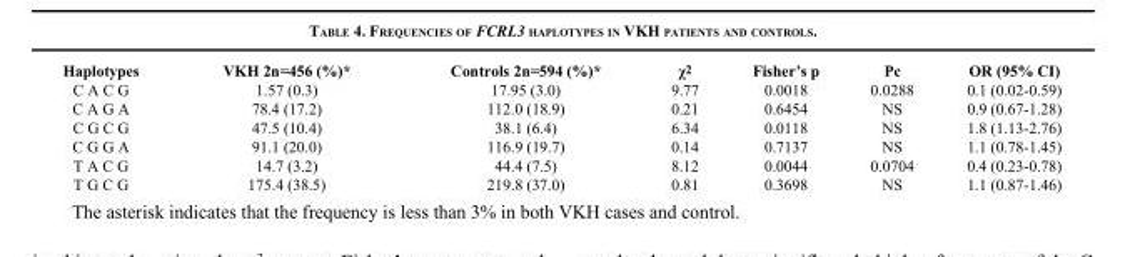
<table><thead><tr><td>Haplotypes</td><td>VKH 2n=456 (%)*</td><td>Controls 2n=594 (%)*</td><td>χ<sup>2</sup></td><td>Fisher’s p</td><td>Pc</td><td>OR (95% CI)</td></tr></thead><tbody><tr><td>C A C G</td><td>1.57 (0.3)</td><td>17.95 (3.0)</td><td>9.77</td><td>0.0018</td><td>0.0288</td><td>0.1 (0.02-0.59)</td></tr><tr><td>C A G A</td><td>78.4 (17.2)</td><td>112.0 (18.9)</td><td>0.21</td><td>0.6454</td><td>NS</td><td>0.9 (0.67-1.28)</td></tr><tr><td>C G C G</td><td>47.5 (10.4)</td><td>38.1 (6.4)</td><td>6.34</td><td>0.0118</td><td>NS</td><td>1.8 (1.13-2.76)</td></tr><tr><td>C G G A</td><td>91.1 (20.0)</td><td>116.9 (19.7)</td><td>0.14</td><td>0.7137</td><td>NS</td><td>1.1 (0.78-1.45)</td></tr><tr><td>T A C G</td><td>14.7 (3.2)</td><td>44.4 (7.5)</td><td>8.12</td><td>0.0044</td><td>0.0704</td><td>0.4 (0.23-0.78)</td></tr><tr><td>T G C G</td><td>175.4 (38.5)</td><td>219.8 (37.0)</td><td>0.81</td><td>0.3698</td><td>NS</td><td>1.1 (0.87-1.46)</td></tr></tbody></table>